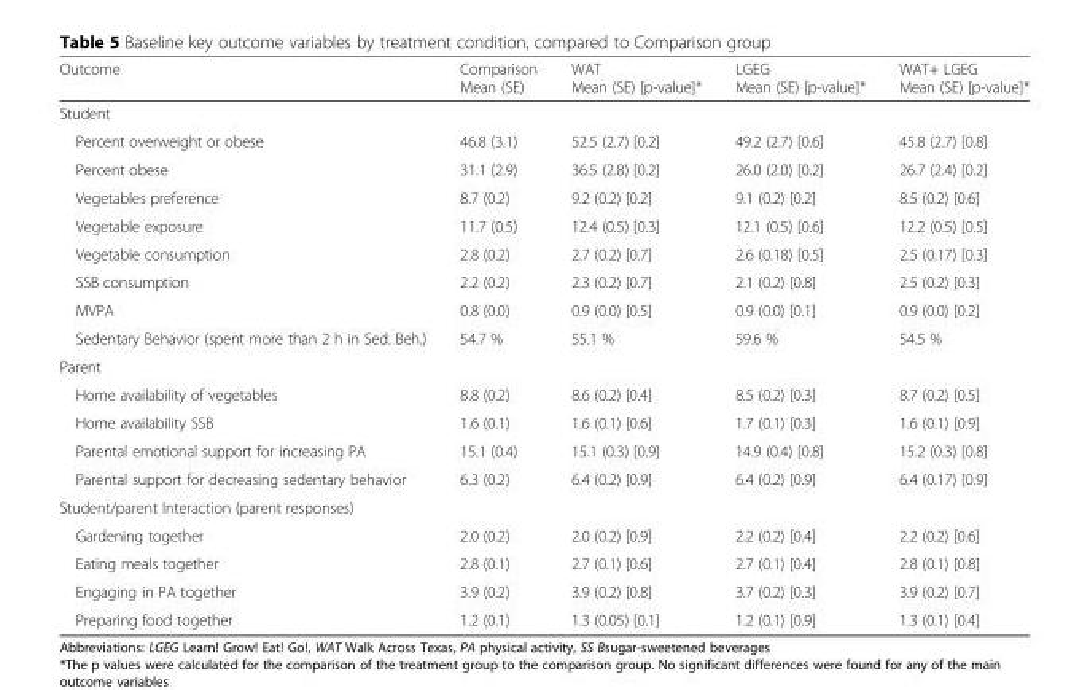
<table><thead><tr><td>Outcome</td><td>Comparison Mean (SE)</td><td>WAT Mean (SE) [p-value]*</td><td>LGEG Mean (SE) [p-value]*</td><td>WAT+ LGEG Mean (SE) [p-value]*</td></tr></thead><tbody><tr><td colspan="5">Student</td></tr><tr><td>Percent overweight or obese</td><td>46.8 (3.1)</td><td>52.5 (2.7) [0.2]</td><td>49.2 (2.7) [0.6]</td><td>45.8 (2.7) [0.8]</td></tr><tr><td>Percent obese</td><td>31.1 (2.9)</td><td>36.5 (2.8) [0.2]</td><td>26.0 (2.0) [0.2]</td><td>26.7 (2.4) [0.2]</td></tr><tr><td>Vegetables preference</td><td>8.7 (0.2)</td><td>9.2 (0.2) [0.2]</td><td>9.1 (0.2) [0.2]</td><td>8.5 (0.2) [0.6]</td></tr><tr><td>Vegetable exposure</td><td>11.7 (0.5)</td><td>12.4 (0.5) [0.3]</td><td>12.1 (0.5) [0.6]</td><td>12.2 (0.5) [0.5]</td></tr><tr><td>Vegetable consumption</td><td>2.8 (0.2)</td><td>2.7 (0.2) [0.7]</td><td>2.6 (0.18) [0.5]</td><td>2.5 (0.17) [0.3]</td></tr><tr><td>SSB consumption</td><td>2.2 (0.2)</td><td>2.3 (0.2) [0.7]</td><td>2.1 (0.2) [0.8]</td><td>2.5 (0.2) [0.3]</td></tr><tr><td>MVPA</td><td>0.8 (0.0)</td><td>0.9 (0.0) [0.5]</td><td>0.9 (0.0) [0.1]</td><td>0.9 (0.0) [0.2]</td></tr><tr><td>Sedentary Behavior (spent more than 2 h in Sed. Beh.)</td><td>54.7 %</td><td>55.1 %</td><td>59.6 %</td><td>54.5 %</td></tr><tr><td colspan="5">Parent</td></tr><tr><td>Home availability of vegetables</td><td>8.8 (0.2)</td><td>8.6 (0.2) [0.4]</td><td>8.5 (0.2) [0.3]</td><td>8.7 (0.2) [0.5]</td></tr><tr><td>Home availability SSB</td><td>1.6 (0.1)</td><td>1.6 (0.1) [0.6]</td><td>1.7 (0.1) [0.3]</td><td>1.6 (0.1) [0.9]</td></tr><tr><td>Parental emotional support for increasing PA</td><td>15.1 (0.4)</td><td>15.1 (0.3) [0.9]</td><td>14.9 (0.4) [0.8]</td><td>15.2 (0.3) [0.8]</td></tr><tr><td>Parental support for decreasing sedentary behavior</td><td>6.3 (0.2)</td><td>6.4 (0.2) [0.9]</td><td>6.4 (0.2) [0.9]</td><td>6.4 (0.17) [0.9]</td></tr><tr><td colspan="5">Student/parent Interaction (parent responses)</td></tr><tr><td>Gardening together</td><td>2.0 (0.2)</td><td>2.0 (0.2) [0.9]</td><td>2.2 (0.2) [0.4]</td><td>2.2 (0.2) [0.6]</td></tr><tr><td>Eating meals together</td><td>2.8 (0.1)</td><td>2.7 (0.1) [0.6]</td><td>2.7 (0.1) [0.4]</td><td>2.8 (0.1) [0.8]</td></tr><tr><td>Engaging in PA together</td><td>3.9 (0.2)</td><td>3.9 (0.2) [0.8]</td><td>3.7 (0.2) [0.3]</td><td>3.9 (0.2) [0.7]</td></tr><tr><td>Preparing food together</td><td>1.2 (0.1)</td><td>1.3 (0.05) [0.1]</td><td>1.2 (0.1) [0.9]</td><td>1.3 (0.1) [0.4]</td></tr></tbody></table>